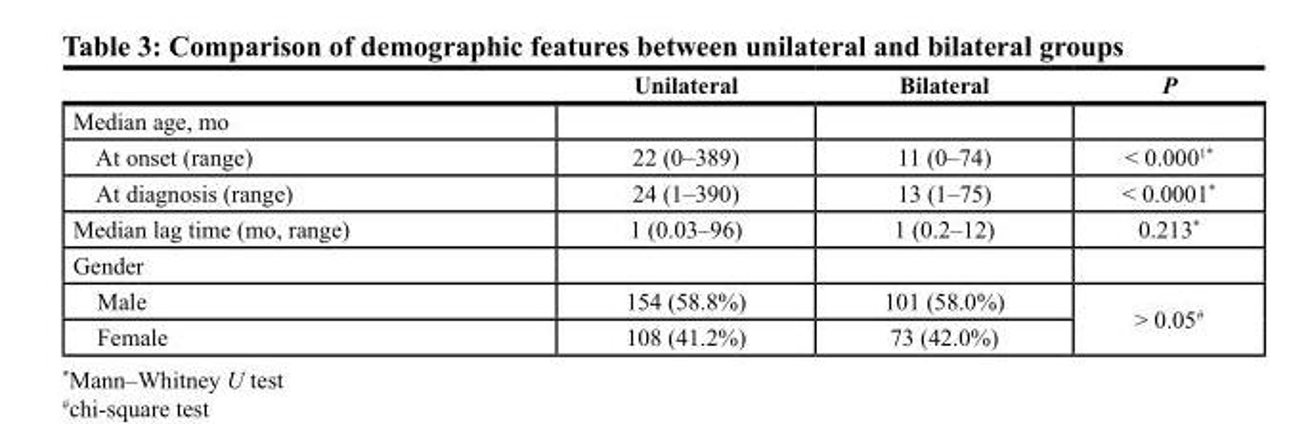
<table><thead><tr><td></td><td>Unilateral</td><td>Bilateral</td><td>P</td></tr></thead><tbody><tr><td colspan="4">Median age, mo</td></tr><tr><td>At onset (range)</td><td>22 (0–389)</td><td>11 (0–74)</td><td>&lt; 0.000<sup>1*</sup></td></tr><tr><td>At diagnosis (range)</td><td>24 (1–390)</td><td>13 (1–75)</td><td>&lt; 0.0001*</td></tr><tr><td>Median lag time (mo, range)</td><td>1 (0.03–96)</td><td>1 (0.2–12)</td><td>0.213*</td></tr><tr><td colspan="4">Gender</td></tr><tr><td>Male</td><td>154 (58.8%)</td><td>101 (58.0%)</td><td rowspan="2">&gt; 0.05<sup>#</sup></td></tr><tr><td>Female</td><td>108 (41.2%)</td><td>73 (42.0%)</td></tr></tbody></table>